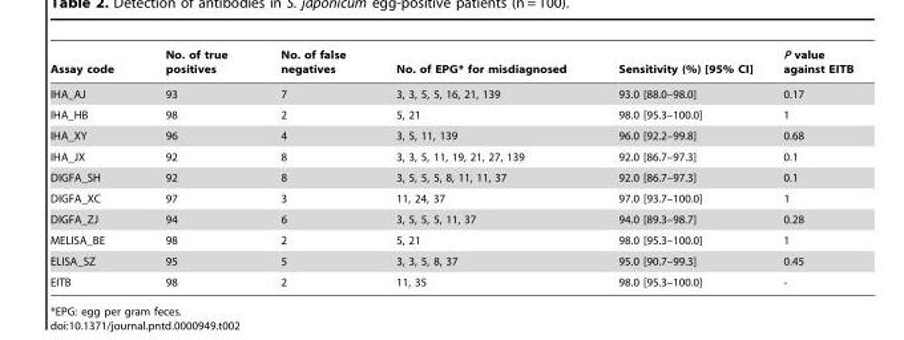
<table><thead><tr><td>Assay code</td><td>No. of true positives</td><td>No. of false negatives</td><td>No. of EPG* for misdiagnosed</td><td>Sensitivity (%) [95% CI]</td><td>P value against EITB</td></tr></thead><tbody><tr><td>IHA_AJ</td><td>93</td><td>7</td><td>3, 3, 5, 5, 16, 21, 139</td><td>93.0 [88.0–98.0]</td><td>0.17</td></tr><tr><td>IHA_HB</td><td>98</td><td>2</td><td>5, 21</td><td>98.0 [95.3–100.0]</td><td>1</td></tr><tr><td>IHA_XY</td><td>96</td><td>4</td><td>3, 5, 11, 139</td><td>96.0 [92.2–99.8]</td><td>0.68</td></tr><tr><td>IHA_JX</td><td>92</td><td>8</td><td>3, 3, 5, 11, 19, 21, 27, 139</td><td>92.0 [86.7–97.3]</td><td>0.1</td></tr><tr><td>DIGFA_SH</td><td>92</td><td>8</td><td>3, 5, 5, 5, 8, 11, 11, 37</td><td>92.0 [86.7–97.3]</td><td>0.1</td></tr><tr><td>DIGFA_XC</td><td>97</td><td>3</td><td>11, 24, 37</td><td>97.0 [93.7–100.0]</td><td>1</td></tr><tr><td>DIGFA_ZJ</td><td>94</td><td>6</td><td>3, 5, 5, 5, 11, 37</td><td>94.0 [89.3–98.7]</td><td>0.28</td></tr><tr><td>MELISA_BE</td><td>98</td><td>2</td><td>5, 21</td><td>98.0 [95.3–100.0]</td><td>1</td></tr><tr><td>ELISA_SZ</td><td>95</td><td>5</td><td>3, 3, 5, 8, 37</td><td>95.0 [90.7–99.3]</td><td>0.45</td></tr><tr><td>EITB</td><td>98</td><td>2</td><td>11, 35</td><td>98.0 [95.3–100.0]</td><td>-</td></tr></tbody></table>